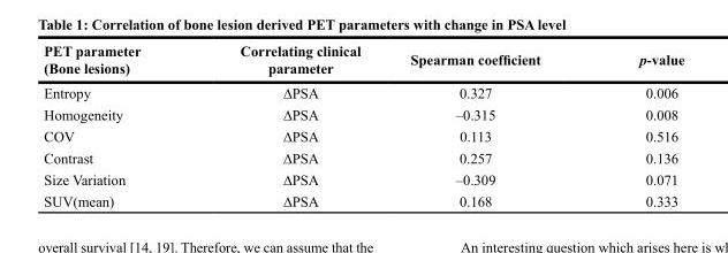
<table><thead><tr><td>PET parameter (Bone lesions)</td><td>Correlating clinical parameter</td><td>Spearman coefficient</td><td>p-value</td></tr></thead><tbody><tr><td>Entropy</td><td>∆PSA</td><td>0.327</td><td>0.006</td></tr><tr><td>Homogeneity</td><td>∆PSA</td><td>–0.315</td><td>0.008</td></tr><tr><td>COV</td><td>∆PSA</td><td>0.113</td><td>0.516</td></tr><tr><td>Contrast</td><td>∆PSA</td><td>0.257</td><td>0.136</td></tr><tr><td>Size Variation</td><td>∆PSA</td><td>–0.309</td><td>0.071</td></tr><tr><td>SUV(mean)</td><td>∆PSA</td><td>0.168</td><td>0.333</td></tr></tbody></table>